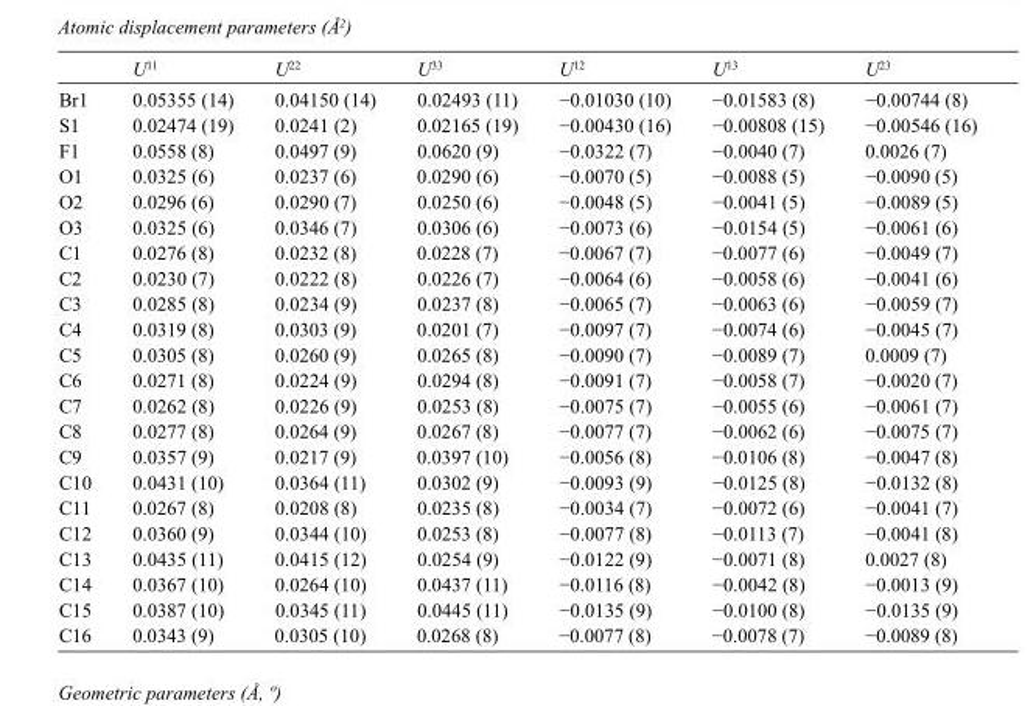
<table><thead><tr><td></td><td>U<sup>11</sup></td><td>U<sup>22</sup></td><td>U<sup>33</sup></td><td>U<sup>12</sup></td><td>U<sup>13</sup></td><td>U<sup>23</sup></td></tr></thead><tbody><tr><td>Br1</td><td>0.05355 (14)</td><td>0.04150 (14)</td><td>0.02493 (11)</td><td>−0.01030 (10)</td><td>−0.01583 (8)</td><td>−0.00744 (8)</td></tr><tr><td>S1</td><td>0.02474 (19)</td><td>0.0241 (2)</td><td>0.02165 (19)</td><td>−0.00430 (16)</td><td>−0.00808 (15)</td><td>−0.00546 (16)</td></tr><tr><td>F1</td><td>0.0558 (8)</td><td>0.0497 (9)</td><td>0.0620 (9)</td><td>−0.0322 (7)</td><td>−0.0040 (7)</td><td>0.0026 (7)</td></tr><tr><td>O1</td><td>0.0325 (6)</td><td>0.0237 (6)</td><td>0.0290 (6)</td><td>−0.0070 (5)</td><td>−0.0088 (5)</td><td>−0.0090 (5)</td></tr><tr><td>O2</td><td>0.0296 (6)</td><td>0.0290 (7)</td><td>0.0250 (6)</td><td>−0.0048 (5)</td><td>−0.0041 (5)</td><td>−0.0089 (5)</td></tr><tr><td>O3</td><td>0.0325 (6)</td><td>0.0346 (7)</td><td>0.0306 (6)</td><td>−0.0073 (6)</td><td>−0.0154 (5)</td><td>−0.0061 (6)</td></tr><tr><td>C1</td><td>0.0276 (8)</td><td>0.0232 (8)</td><td>0.0228 (7)</td><td>−0.0067 (7)</td><td>−0.0077 (6)</td><td>−0.0049 (7)</td></tr><tr><td>C2</td><td>0.0230 (7)</td><td>0.0222 (8)</td><td>0.0226 (7)</td><td>−0.0064 (6)</td><td>−0.0058 (6)</td><td>−0.0041 (6)</td></tr><tr><td>C3</td><td>0.0285 (8)</td><td>0.0234 (9)</td><td>0.0237 (8)</td><td>−0.0065 (7)</td><td>−0.0063 (6)</td><td>−0.0059 (7)</td></tr><tr><td>C4</td><td>0.0319 (8)</td><td>0.0303 (9)</td><td>0.0201 (7)</td><td>−0.0097 (7)</td><td>−0.0074 (6)</td><td>−0.0045 (7)</td></tr><tr><td>C5</td><td>0.0305 (8)</td><td>0.0260 (9)</td><td>0.0265 (8)</td><td>−0.0090 (7)</td><td>−0.0089 (7)</td><td>0.0009 (7)</td></tr><tr><td>C6</td><td>0.0271 (8)</td><td>0.0224 (9)</td><td>0.0294 (8)</td><td>−0.0091 (7)</td><td>−0.0058 (7)</td><td>−0.0020 (7)</td></tr><tr><td>C7</td><td>0.0262 (8)</td><td>0.0226 (9)</td><td>0.0253 (8)</td><td>−0.0075 (7)</td><td>−0.0055 (6)</td><td>−0.0061 (7)</td></tr><tr><td>C8</td><td>0.0277 (8)</td><td>0.0264 (9)</td><td>0.0267 (8)</td><td>−0.0077 (7)</td><td>−0.0062 (6)</td><td>−0.0075 (7)</td></tr><tr><td>C9</td><td>0.0357 (9)</td><td>0.0217 (9)</td><td>0.0397 (10)</td><td>−0.0056 (8)</td><td>−0.0106 (8)</td><td>−0.0047 (8)</td></tr><tr><td>C10</td><td>0.0431 (10)</td><td>0.0364 (11)</td><td>0.0302 (9)</td><td>−0.0093 (9)</td><td>−0.0125 (8)</td><td>−0.0132 (8)</td></tr><tr><td>C11</td><td>0.0267 (8)</td><td>0.0208 (8)</td><td>0.0235 (8)</td><td>−0.0034 (7)</td><td>−0.0072 (6)</td><td>−0.0041 (7)</td></tr><tr><td>C12</td><td>0.0360 (9)</td><td>0.0344 (10)</td><td>0.0253 (8)</td><td>−0.0077 (8)</td><td>−0.0113 (7)</td><td>−0.0041 (8)</td></tr><tr><td>C13</td><td>0.0435 (11)</td><td>0.0415 (12)</td><td>0.0254 (9)</td><td>−0.0122 (9)</td><td>−0.0071 (8)</td><td>0.0027 (8)</td></tr><tr><td>C14</td><td>0.0367 (10)</td><td>0.0264 (10)</td><td>0.0437 (11)</td><td>−0.0116 (8)</td><td>−0.0042 (8)</td><td>−0.0013 (9)</td></tr><tr><td>C15</td><td>0.0387 (10)</td><td>0.0345 (11)</td><td>0.0445 (11)</td><td>−0.0135 (9)</td><td>−0.0100 (8)</td><td>−0.0135 (9)</td></tr><tr><td>C16</td><td>0.0343 (9)</td><td>0.0305 (10)</td><td>0.0268 (8)</td><td>−0.0077 (8)</td><td>−0.0078 (7)</td><td>−0.0089 (8)</td></tr></tbody></table>